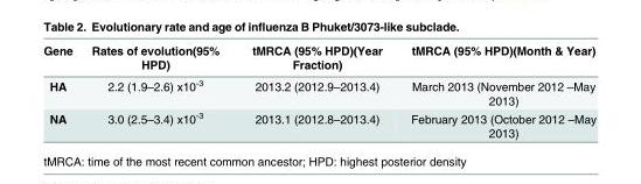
<table><thead><tr><td>Gene</td><td>Rates of evolution(95% HPD)</td><td>tMRCA (95% HPD)(Year Fraction)</td><td>tMRCA (95% HPD)(Month &amp; Year)</td></tr></thead><tbody><tr><td>HA</td><td>2.2 (1.9–2.6) x10<sup>-3</sup></td><td>2013.2 (2012.9–2013.4)</td><td>March 2013 (November 2012 –May 2013)</td></tr><tr><td>NA</td><td>3.0 (2.5–3.4) x10<sup>-3</sup></td><td>2013.1 (2012.8–2013.4)</td><td>February 2013 (October 2012 –May 2013)</td></tr></tbody></table>